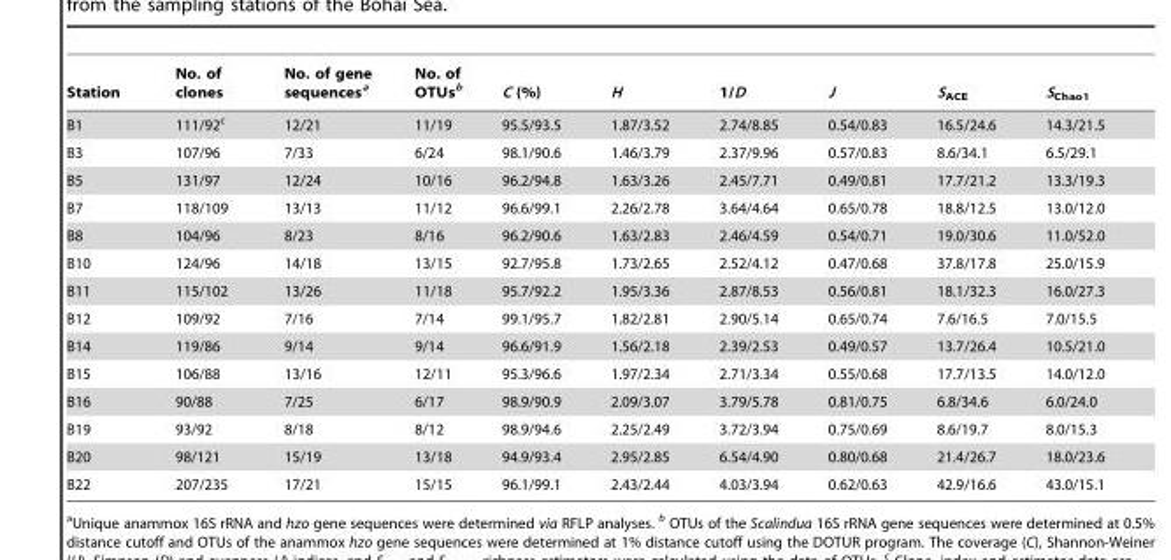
<table><thead><tr><td>Station</td><td>No. of clones</td><td>No. of gene sequences<sup>a</sup></td><td>No. of OTUs<sup>b</sup></td><td>C (%)</td><td>H</td><td>1/D</td><td>J</td><td>S<sub>ACE</sub></td><td>S<sub>Chao1</sub></td></tr></thead><tbody><tr><td>B1</td><td>111/92<sup>c</sup></td><td>12/21</td><td>11/19</td><td>95.5/93.5</td><td>1.87/3.52</td><td>2.74/8.85</td><td>0.54/0.83</td><td>16.5/24.6</td><td>14.3/21.5</td></tr><tr><td>B3</td><td>107/96</td><td>7/33</td><td>6/24</td><td>98.1/90.6</td><td>1.46/3.79</td><td>2.37/9.96</td><td>0.57/0.83</td><td>8.6/34.1</td><td>6.5/29.1</td></tr><tr><td>B5</td><td>131/97</td><td>12/24</td><td>10/16</td><td>96.2/94.8</td><td>1.63/3.26</td><td>2.45/7.71</td><td>0.49/0.81</td><td>17.7/21.2</td><td>13.3/19.3</td></tr><tr><td>B7</td><td>118/109</td><td>13/13</td><td>11/12</td><td>96.6/99.1</td><td>2.26/2.78</td><td>3.64/4.64</td><td>0.65/0.78</td><td>18.8/12.5</td><td>13.0/12.0</td></tr><tr><td>B8</td><td>104/96</td><td>8/23</td><td>8/16</td><td>96.2/90.6</td><td>1.63/2.83</td><td>2.46/4.59</td><td>0.54/0.71</td><td>19.0/30.6</td><td>11.0/52.0</td></tr><tr><td>B10</td><td>124/96</td><td>14/18</td><td>13/15</td><td>92.7/95.8</td><td>1.73/2.65</td><td>2.52/4.12</td><td>0.47/0.68</td><td>37.8/17.8</td><td>25.0/15.9</td></tr><tr><td>B11</td><td>115/102</td><td>13/26</td><td>11/18</td><td>95.7/92.2</td><td>1.95/3.36</td><td>2.87/8.53</td><td>0.56/0.81</td><td>18.1/32.3</td><td>16.0/27.3</td></tr><tr><td>B12</td><td>109/92</td><td>7/16</td><td>7/14</td><td>99.1/95.7</td><td>1.82/2.81</td><td>2.90/5.14</td><td>0.65/0.74</td><td>7.6/16.5</td><td>7.0/15.5</td></tr><tr><td>B14</td><td>119/86</td><td>9/14</td><td>9/14</td><td>96.6/91.9</td><td>1.56/2.18</td><td>2.39/2.53</td><td>0.49/0.57</td><td>13.7/26.4</td><td>10.5/21.0</td></tr><tr><td>B15</td><td>106/88</td><td>13/16</td><td>12/11</td><td>95.3/96.6</td><td>1.97/2.34</td><td>2.71/3.34</td><td>0.55/0.68</td><td>17.7/13.5</td><td>14.0/12.0</td></tr><tr><td>B16</td><td>90/88</td><td>7/25</td><td>6/17</td><td>98.9/90.9</td><td>2.09/3.07</td><td>3.79/5.78</td><td>0.81/0.75</td><td>6.8/34.6</td><td>6.0/24.0</td></tr><tr><td>B19</td><td>93/92</td><td>8/18</td><td>8/12</td><td>98.9/94.6</td><td>2.25/2.49</td><td>3.72/3.94</td><td>0.75/0.69</td><td>8.6/19.7</td><td>8.0/15.3</td></tr><tr><td>B20</td><td>98/121</td><td>15/19</td><td>13/18</td><td>94.9/93.4</td><td>2.95/2.85</td><td>6.54/4.90</td><td>0.80/0.68</td><td>21.4/26.7</td><td>18.0/23.6</td></tr><tr><td>B22</td><td>207/235</td><td>17/21</td><td>15/15</td><td>96.1/99.1</td><td>2.43/2.44</td><td>4.03/3.94</td><td>0.62/0.63</td><td>42.9/16.6</td><td>43.0/15.1</td></tr></tbody></table>